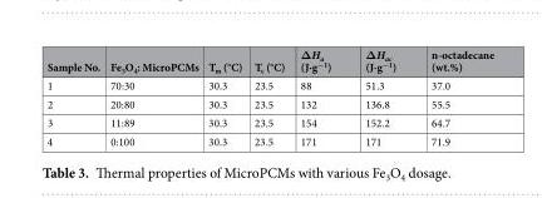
<table><thead><tr><td>Sample No.</td><td>Fe<sub>3</sub>O<sub>4</sub>: MicroPCMs</td><td>T<sub>m</sub> (°C)</td><td>T<sub>c</sub> (°C)</td><td>ΔH<sub>a</sub> (J·g<sup>−1</sup>)</td><td>ΔH<sub>ac</sub> (J·g<sup>−1</sup>)</td><td>n-octadecane (wt.%)</td></tr></thead><tbody><tr><td>1</td><td>70:30</td><td>30.3</td><td>23.5</td><td>88</td><td>51.3</td><td>37.0</td></tr><tr><td>2</td><td>20:80</td><td>30.3</td><td>23.5</td><td>132</td><td>136.8</td><td>55.5</td></tr><tr><td>3</td><td>11:89</td><td>30.3</td><td>23.5</td><td>154</td><td>152.2</td><td>64.7</td></tr><tr><td>4</td><td>0:100</td><td>30.3</td><td>23.5</td><td>171</td><td>171</td><td>71.9</td></tr></tbody></table>